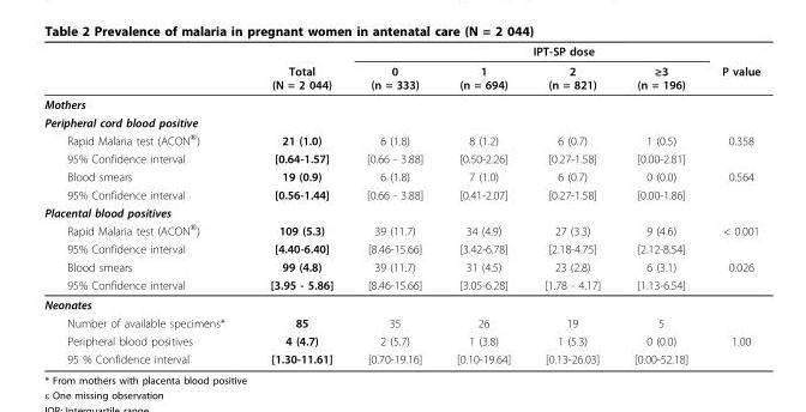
<table><thead><tr><td rowspan="2"></td><td rowspan="2">Total (N = 2 044)</td><td colspan="5">IPT-SP dose</td></tr><tr><td>0 (n = 333)</td><td>1 (n = 694)</td><td>2 (n = 821)</td><td>≥3 (n = 196)</td><td>P value</td></tr></thead><tbody><tr><td colspan="7">Mothers</td></tr><tr><td colspan="7">Peripheral cord blood positive</td></tr><tr><td>Rapid Malaria test (ACON<sup>®</sup>)</td><td>21 (1.0)</td><td>6 (1.8)</td><td>8 (1.2)</td><td>6 (0.7)</td><td>1 (0.5)</td><td>0.358</td></tr><tr><td>95% Confidence interval</td><td>[0.64-1.57]</td><td>[0.66 - 3.88]</td><td>[0.50-2.26]</td><td>[0.27-1.58]</td><td>[0.00-2.81]</td><td></td></tr><tr><td>Blood smears</td><td>19 (0.9)</td><td>6 (1.8)</td><td>7 (1.0)</td><td>6 (0.7)</td><td>0 (0.0)</td><td>0.564</td></tr><tr><td>95% Confidence interval</td><td>[0.56-1.44]</td><td>[0.66 - 3.88]</td><td>[0.41-2.07]</td><td>[0.27-1.58]</td><td>[0.00-1.86]</td><td></td></tr><tr><td colspan="7">Placental blood positives</td></tr><tr><td>Rapid Malaria test (ACON<sup>®</sup>)</td><td>109 (5.3)</td><td>39 (11.7)</td><td>34 (4.9)</td><td>27 (3.3)</td><td>9 (4.6)</td><td>&lt; 0.001</td></tr><tr><td>95% Confidence interval</td><td>[4.40-6.40]</td><td>[8.46-15.66]</td><td>[3.42-6.78]</td><td>[2.18-4.75]</td><td>[2.12-8.54]</td><td></td></tr><tr><td>Blood smears</td><td>99 (4.8)</td><td>39 (11.7)</td><td>31 (4.5)</td><td>23 (2.8)</td><td>6 (3.1)</td><td>0.026</td></tr><tr><td>95% Confidence interval</td><td>[3.95 - 5.86]</td><td>[8.46-15.66]</td><td>[3.05-6.28]</td><td>[1.78 - 4.17]</td><td>[1.13-6.54]</td><td></td></tr><tr><td colspan="7">Neonates</td></tr><tr><td>Number of available specimens*</td><td>85</td><td>35</td><td>26</td><td>19</td><td>5</td><td></td></tr><tr><td>Peripheral blood positives</td><td>4 (4.7)</td><td>2 (5.7)</td><td>1 (3.8)</td><td>1 (5.3)</td><td>0 (0.0)</td><td>1.00</td></tr><tr><td>95 % Confidence interval</td><td>[1.30-11.61]</td><td>[0.70-19.16]</td><td>[0.10-19.64]</td><td>[0.13-26.03]</td><td>[0.00-52.18]</td><td></td></tr></tbody></table>